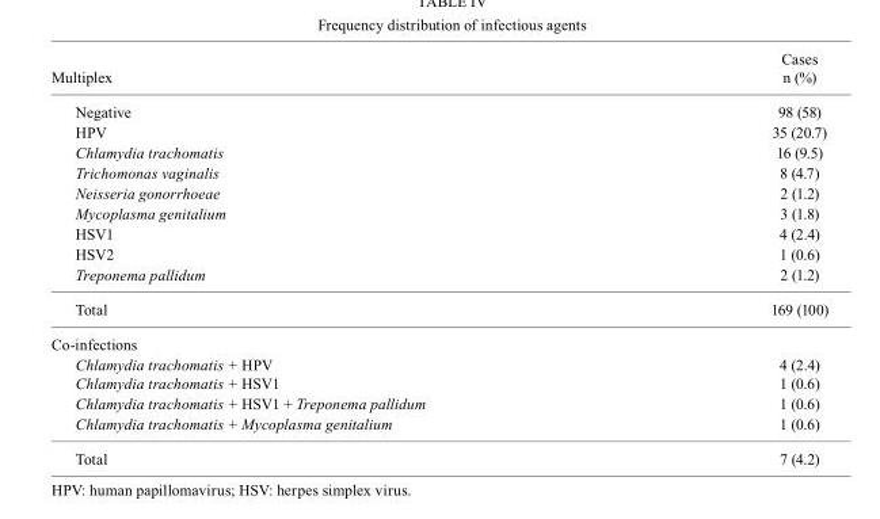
<table><thead><tr><td>Multiplex</td><td>Cases n (%)</td></tr></thead><tbody><tr><td>Negative</td><td>98 (58)</td></tr><tr><td>HPV</td><td>35 (20.7)</td></tr><tr><td>Chlamydia trachomatis</td><td>16 (9.5)</td></tr><tr><td>Trichomonas vaginalis</td><td>8 (4.7)</td></tr><tr><td>Neisseria gonorrhoeae</td><td>2 (1.2)</td></tr><tr><td>Mycoplasma genitalium</td><td>3 (1.8)</td></tr><tr><td>HSV1</td><td>4 (2.4)</td></tr><tr><td>HSV2</td><td>1 (0.6)</td></tr><tr><td>Treponema pallidum</td><td>2 (1.2)</td></tr><tr><td>Total</td><td>169 (100)</td></tr><tr><td colspan="2">Co-infections</td></tr><tr><td>Chlamydia trachomatis + HPV Chlamydia trachomatis + HSV1</td><td>4 (2.4) 1 (0.6)</td></tr><tr><td>Chlamydia trachomatis + HSV1 + Treponema pallidum</td><td>1 (0.6)</td></tr><tr><td>Chlamydia trachomatis + Mycoplasma genitalium</td><td>1 (0.6)</td></tr><tr><td>Total</td><td>7 (4.2)</td></tr></tbody></table>